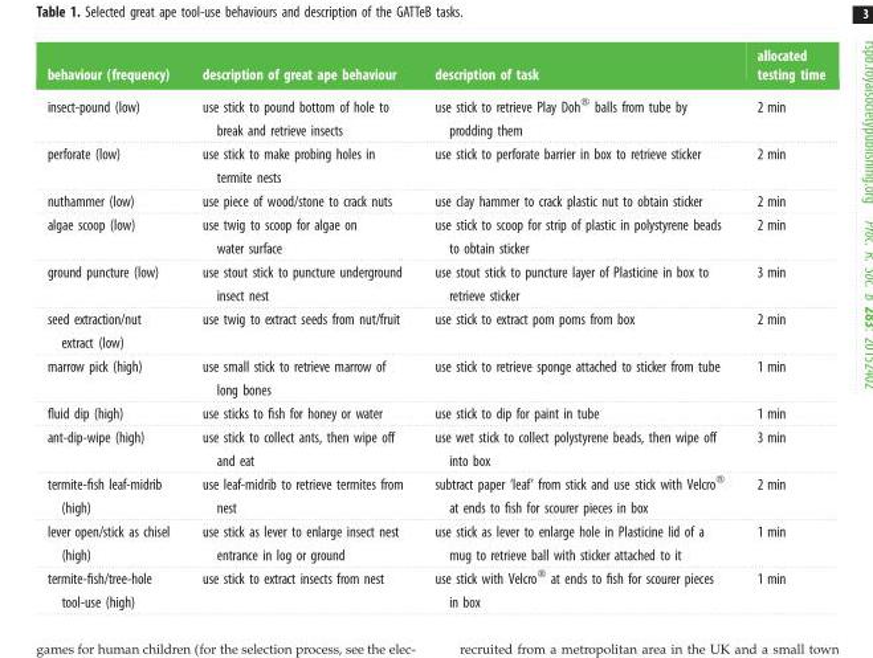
<table><thead><tr><td>behaviour (frequency)</td><td>description of great ape behaviour</td><td>description of task</td><td>allocated testing time</td></tr></thead><tbody><tr><td>insect-pound (low)</td><td>use stick to pound bottom of hole to break and retrieve insects</td><td>use stick to retrieve Play Doh<sup>®</sup> balls from tube by prodding them</td><td>2 min</td></tr><tr><td>perforate (low)</td><td>use stick to make probing holes in termite nests</td><td>use stick to perforate barrier in box to retrieve sticker</td><td>2 min</td></tr><tr><td>nuthammer (low)</td><td>use piece of wood/stone to crack nuts</td><td>use clay hammer to crack plastic nut to obtain sticker</td><td>2 min</td></tr><tr><td>algae scoop (low)</td><td>use twig to scoop for algae on water surface</td><td>use stick to scoop for strip of plastic in polystyrene beads to obtain sticker</td><td>2 min</td></tr><tr><td>ground puncture (low)</td><td>use stout stick to puncture underground insect nest</td><td>use stout stick to puncture layer of Plasticine in box to retrieve sticker</td><td>3 min</td></tr><tr><td>seed extraction/nut extract (low)</td><td>use twig to extract seeds from nut/fruit</td><td>use stick to extract pom poms from box</td><td>2 min</td></tr><tr><td>marrow pick (high)</td><td>use small stick to retrieve marrow of long bones</td><td>use stick to retrieve sponge attached to sticker from tube</td><td>1 min</td></tr><tr><td>fluid dip (high)</td><td>use sticks to fish for honey or water</td><td>use stick to dip for paint in tube</td><td>1 min</td></tr><tr><td>ant-dip-wipe (high)</td><td>use stick to collect ants, then wipe off and eat</td><td>use wet stick to collect polystyrene beads, then wipe off into box</td><td>3 min</td></tr><tr><td>termite-fish leaf-midrib (high)</td><td>use leaf-midrib to retrieve termites from nest</td><td>subtract paper ‘leaf’ from stick and use stick with Velcro<sup>®</sup> at ends to fish for scourer pieces in box</td><td>2 min</td></tr><tr><td>lever open/stick as chisel (high)</td><td>use stick as lever to enlarge insect nest entrance in log or ground</td><td>use stick as lever to enlarge hole in Plasticine lid of a mug to retrieve ball with sticker attached to it</td><td>1 min</td></tr><tr><td>termite-fish/tree-hole tool-use (high)</td><td>use stick to extract insects from nest</td><td>use stick with Velcro<sup>®</sup> at ends to fish for scourer pieces in box</td><td>1 min</td></tr></tbody></table>